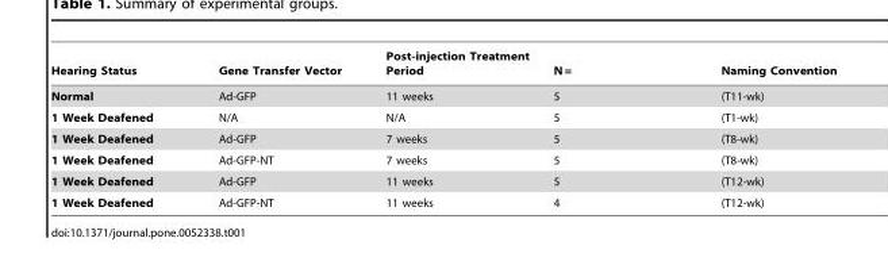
<table><thead><tr><td>Hearing Status</td><td>Gene Transfer Vector</td><td>Post-injection Treatment Period</td><td>N =</td><td>Naming Convention</td></tr></thead><tbody><tr><td>Normal</td><td>Ad-GFP</td><td>11 weeks</td><td>5</td><td>(T11-wk)</td></tr><tr><td>1 Week Deafened</td><td>N/A</td><td>N/A</td><td>5</td><td>(T1-wk)</td></tr><tr><td>1 Week Deafened</td><td>Ad-GFP</td><td>7 weeks</td><td>5</td><td>(T8-wk)</td></tr><tr><td>1 Week Deafened</td><td>Ad-GFP-NT</td><td>7 weeks</td><td>5</td><td>(T8-wk)</td></tr><tr><td>1 Week Deafened</td><td>Ad-GFP</td><td>11 weeks</td><td>5</td><td>(T12-wk)</td></tr><tr><td>1 Week Deafened</td><td>Ad-GFP-NT</td><td>11 weeks</td><td>4</td><td>(T12-wk)</td></tr></tbody></table>